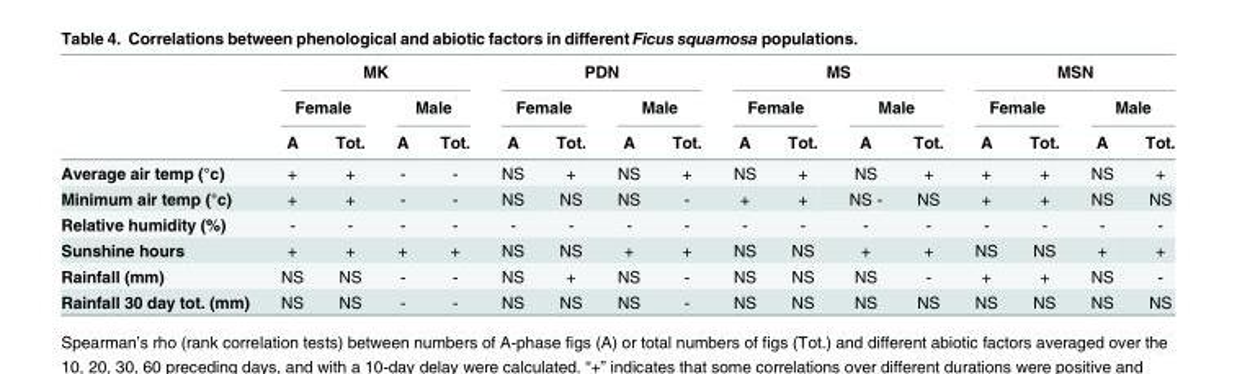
<table><thead><tr><td rowspan="3"></td><td colspan="4">MK</td><td colspan="4">PDN</td><td colspan="4">MS</td><td colspan="4">MSN</td></tr><tr><td colspan="2">Female</td><td colspan="2">Male</td><td colspan="2">Female</td><td colspan="2">Male</td><td colspan="2">Female</td><td colspan="2">Male</td><td colspan="2">Female</td><td colspan="2">Male</td></tr><tr><td>A</td><td>Tot.</td><td>A</td><td>Tot.</td><td>A</td><td>Tot.</td><td>A</td><td>Tot.</td><td>A</td><td>Tot.</td><td>A</td><td>Tot.</td><td>A</td><td>Tot.</td><td>A</td><td>Tot.</td></tr></thead><tbody><tr><td>Average air temp (°c)</td><td>+</td><td>+</td><td>-</td><td>-</td><td>NS</td><td>+</td><td>NS</td><td>+</td><td>NS</td><td>+</td><td>NS</td><td>+</td><td>+</td><td>+</td><td>NS</td><td>+</td></tr><tr><td>Minimum air temp (°c)</td><td>+</td><td>+</td><td>-</td><td>-</td><td>NS</td><td>NS</td><td>NS</td><td>-</td><td>+</td><td>+</td><td>NS -</td><td>NS</td><td>+</td><td>+</td><td>NS</td><td>NS</td></tr><tr><td>Relative humidity (%)</td><td>-</td><td>-</td><td>-</td><td>-</td><td>-</td><td>-</td><td>-</td><td>-</td><td>-</td><td>-</td><td>-</td><td>-</td><td>-</td><td>-</td><td>-</td><td>-</td></tr><tr><td>Sunshine hours</td><td>+</td><td>+</td><td>+</td><td>+</td><td>NS</td><td>NS</td><td>+</td><td>+</td><td>NS</td><td>NS</td><td>+</td><td>+</td><td>NS</td><td>NS</td><td>+</td><td>+</td></tr><tr><td>Rainfall (mm)</td><td>NS</td><td>NS</td><td>-</td><td>-</td><td>NS</td><td>+</td><td>NS</td><td>-</td><td>NS</td><td>NS</td><td>NS</td><td>-</td><td>+</td><td>+</td><td>NS</td><td>-</td></tr><tr><td>Rainfall 30 day tot. (mm)</td><td>NS</td><td>NS</td><td>-</td><td>-</td><td>NS</td><td>NS</td><td>NS</td><td>-</td><td>NS</td><td>NS</td><td>NS</td><td>NS</td><td>NS</td><td>NS</td><td>NS</td><td>NS</td></tr></tbody></table>